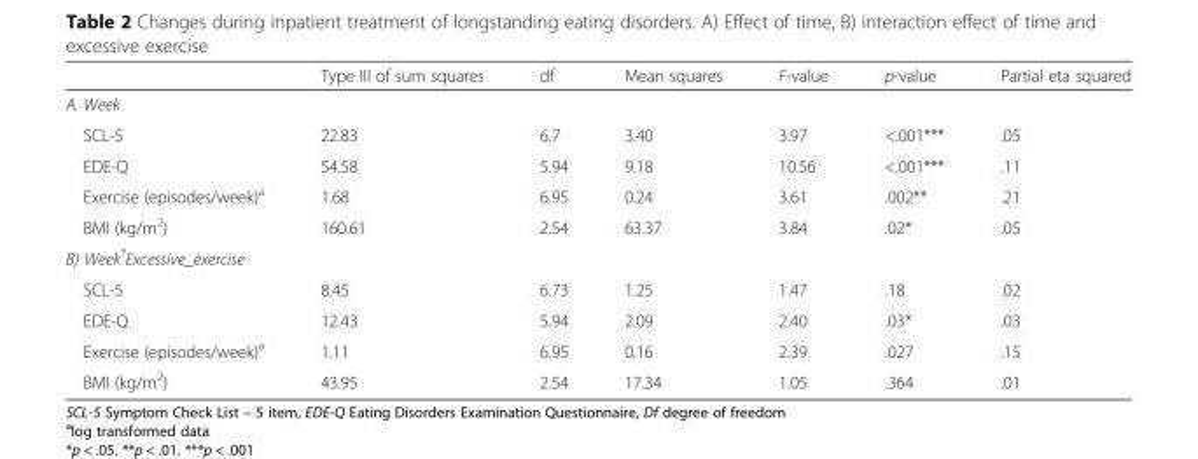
<table><thead><tr><td></td><td>Type III of sum squares</td><td>df</td><td>Mean squares</td><td>F-value</td><td>p-value</td><td>Partial eta squared</td></tr></thead><tbody><tr><td colspan="7">A. Week</td></tr><tr><td>SCL-5</td><td>22.83</td><td>6.7</td><td>3.40</td><td>3.97</td><td>&lt;.001***</td><td>.05</td></tr><tr><td>EDE-Q</td><td>54.58</td><td>5.94</td><td>9.18</td><td>10.56</td><td>&lt;.001***</td><td>.11</td></tr><tr><td>Exercise (episodes/week)<sup>a</sup></td><td>1.68</td><td>6.95</td><td>0.24</td><td>3.61</td><td>.002**</td><td>.21</td></tr><tr><td>BMI (kg/m<sup>2</sup>)</td><td>160.61</td><td>2.54</td><td>63.37</td><td>3.84</td><td>.02*</td><td>.05</td></tr><tr><td colspan="7">B) Week*Excessive_exercise</td></tr><tr><td>SCL-5</td><td>8.45</td><td>6.73</td><td>1.25</td><td>1.47</td><td>.18</td><td>.02</td></tr><tr><td>EDE-Q</td><td>12.43</td><td>5.94</td><td>2.09</td><td>2.40</td><td>.03*</td><td>.03</td></tr><tr><td>Exercise (episodes/week)<sup>a</sup></td><td>1.11</td><td>6.95</td><td>0.16</td><td>2.39</td><td>.027</td><td>.15</td></tr><tr><td>BMI (kg/m<sup>2</sup>)</td><td>43.95</td><td>2.54</td><td>17.34</td><td>1.05</td><td>.364</td><td>.01</td></tr></tbody></table>